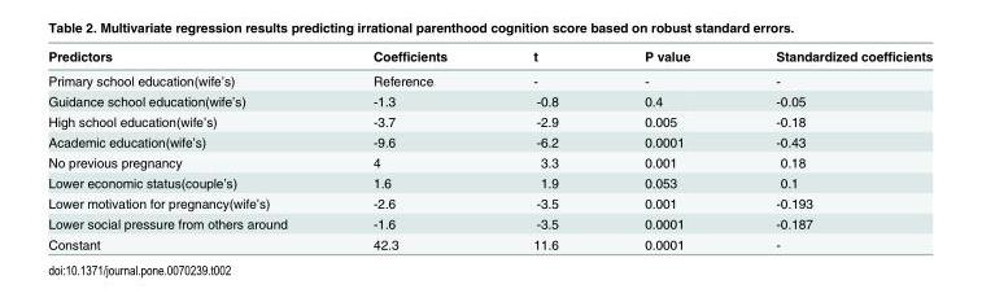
<table><thead><tr><td>Predictors</td><td>Coefficients</td><td>t</td><td>P value</td><td>Standardized coefficients</td></tr></thead><tbody><tr><td>Primary school education(wife’s)</td><td>Reference</td><td>-</td><td>-</td><td>-</td></tr><tr><td>Guidance school education(wife’s)</td><td>-1.3</td><td>-0.8</td><td>0.4</td><td>-0.05</td></tr><tr><td>High school education(wife’s)</td><td>-3.7</td><td>-2.9</td><td>0.005</td><td>-0.18</td></tr><tr><td>Academic education(wife’s)</td><td>-9.6</td><td>-6.2</td><td>0.0001</td><td>-0.43</td></tr><tr><td>No previous pregnancy</td><td>4</td><td>3.3</td><td>0.001</td><td>0.18</td></tr><tr><td>Lower economic status(couple’s)</td><td>1.6</td><td>1.9</td><td>0.053</td><td>0.1</td></tr><tr><td>Lower motivation for pregnancy(wife’s)</td><td>-2.6</td><td>-3.5</td><td>0.001</td><td>-0.193</td></tr><tr><td>Lower social pressure from others around</td><td>-1.6</td><td>-3.5</td><td>0.0001</td><td>-0.187</td></tr><tr><td>Constant</td><td>42.3</td><td>11.6</td><td>0.0001</td><td>-</td></tr></tbody></table>